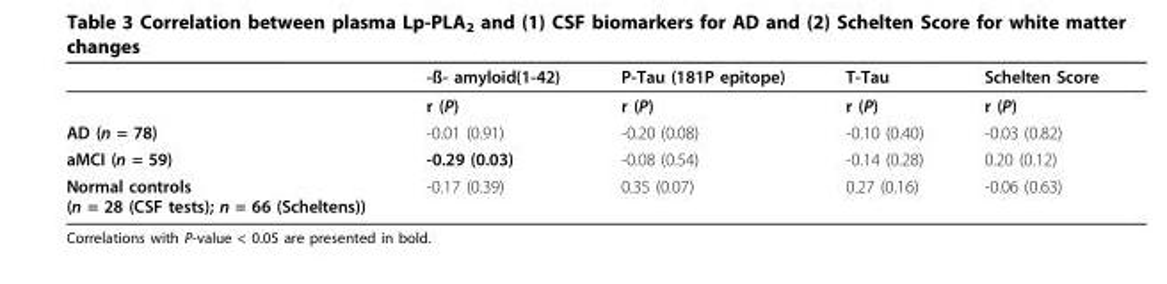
<table><thead><tr><td></td><td>-ß- amyloid(1-42)</td><td>P-Tau (181P epitope)</td><td>T-Tau</td><td>Schelten Score</td></tr></thead><tbody><tr><td></td><td>r (P)</td><td>r (P)</td><td>r (P)</td><td>r (P)</td></tr><tr><td>AD (n = 78)</td><td>-0.01 (0.91)</td><td>-0.20 (0.08)</td><td>-0.10 (0.40)</td><td>-0.03 (0.82)</td></tr><tr><td>aMCI (n = 59)</td><td>-0.29 (0.03)</td><td>-0.08 (0.54)</td><td>-0.14 (0.28)</td><td>0.20 (0.12)</td></tr><tr><td>Normal controls (n = 28 (CSF tests); n = 66 (Scheltens))</td><td>-0.17 (0.39)</td><td>0.35 (0.07)</td><td>0.27 (0.16)</td><td>-0.06 (0.63)</td></tr></tbody></table>